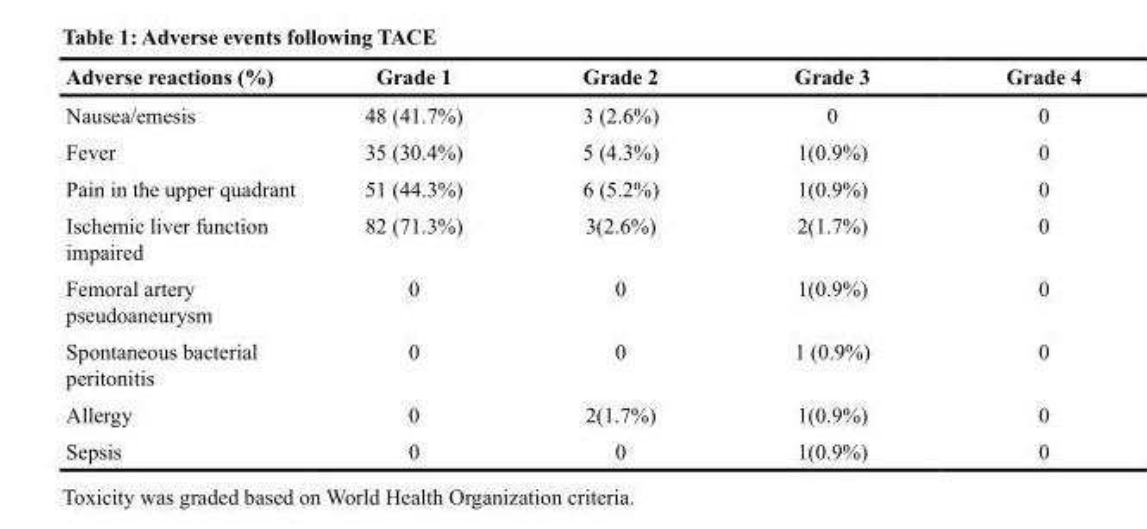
<table><thead><tr><td>Adverse reactions (%)</td><td>Grade 1</td><td>Grade 2</td><td>Grade 3</td><td>Grade 4</td></tr></thead><tbody><tr><td>Nausea/emesis</td><td>48 (41.7%)</td><td>3 (2.6%)</td><td>0</td><td>0</td></tr><tr><td>Fever</td><td>35 (30.4%)</td><td>5 (4.3%)</td><td>1(0.9%)</td><td>0</td></tr><tr><td>Pain in the upper quadrant</td><td>51 (44.3%)</td><td>6 (5.2%)</td><td>1(0.9%)</td><td>0</td></tr><tr><td>Ischemic liver function impaired</td><td>82 (71.3%)</td><td>3(2.6%)</td><td>2(1.7%)</td><td>0</td></tr><tr><td>Femoral artery pseudoaneurysm</td><td>0</td><td>0</td><td>1(0.9%)</td><td>0</td></tr><tr><td>Spontaneous bacterial peritonitis</td><td>0</td><td>0</td><td>1 (0.9%)</td><td>0</td></tr><tr><td>Allergy</td><td>0</td><td>2(1.7%)</td><td>1(0.9%)</td><td>0</td></tr><tr><td>Sepsis</td><td>0</td><td>0</td><td>1(0.9%)</td><td>0</td></tr></tbody></table>